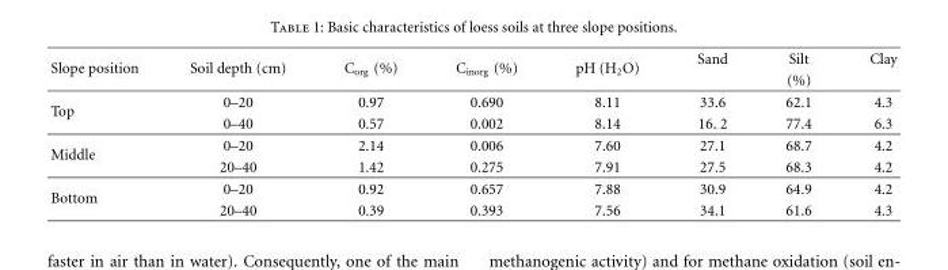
<table><thead><tr><td rowspan="2">Slope position</td><td rowspan="2">Soil depth (cm)</td><td rowspan="2">C<sub>org</sub> (%)</td><td rowspan="2">C<sub>inorg</sub> (%)</td><td rowspan="2">pH (H<sub>2</sub>O)</td><td rowspan="2">Sand</td><td rowspan="2">Silt (%)</td><td rowspan="2">Clay</td></tr><tr></tr></thead><tbody><tr><td rowspan="2">Top</td><td>0–20</td><td>0.97</td><td>0.690</td><td>8.11</td><td>33.6</td><td>62.1</td><td>4.3</td></tr><tr><td>0–40</td><td>0.57</td><td>0.002</td><td>8.14</td><td>16. 2</td><td>77.4</td><td>6.3</td></tr><tr><td rowspan="2">Middle</td><td>0–20</td><td>2.14</td><td>0.006</td><td>7.60</td><td>27.1</td><td>68.7</td><td>4.2</td></tr><tr><td>20–40</td><td>1.42</td><td>0.275</td><td>7.91</td><td>27.5</td><td>68.3</td><td>4.2</td></tr><tr><td rowspan="2">Bottom</td><td>0–20</td><td>0.92</td><td>0.657</td><td>7.88</td><td>30.9</td><td>64.9</td><td>4.2</td></tr><tr><td>20–40</td><td>0.39</td><td>0.393</td><td>7.56</td><td>34.1</td><td>61.6</td><td>4.3</td></tr></tbody></table>